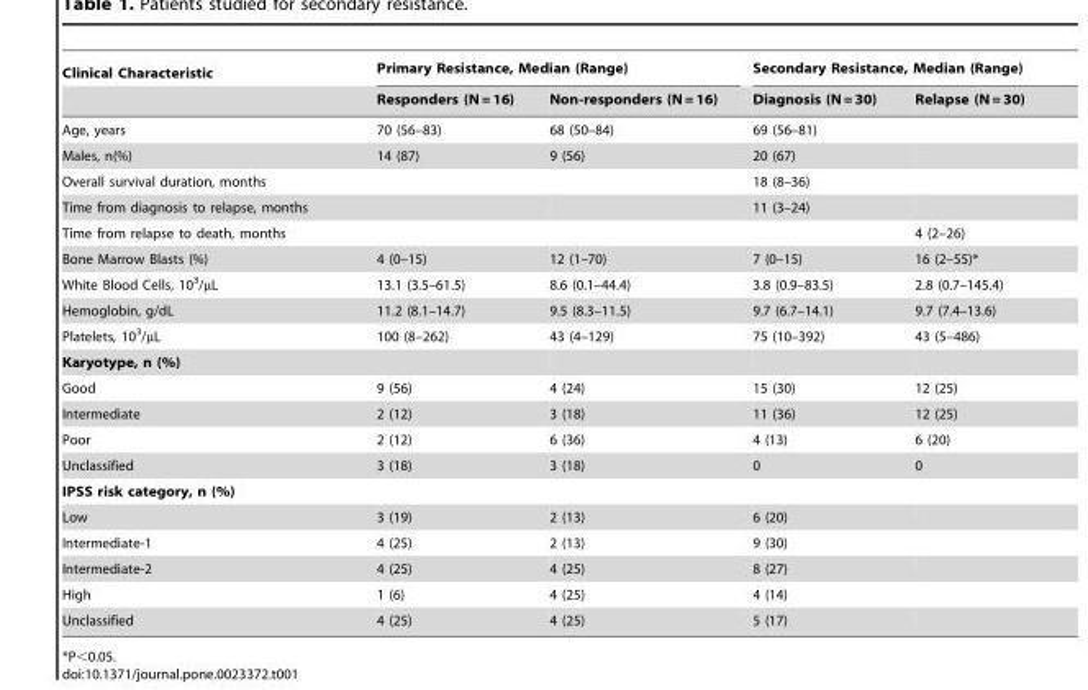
<table><thead><tr><td rowspan="2">Clinical Characteristic</td><td colspan="2">Primary Resistance, Median (Range)</td><td colspan="2">Secondary Resistance, Median (Range)</td></tr><tr><td>Responders (N = 16)</td><td>Non-responders (N = 16)</td><td>Diagnosis (N = 30)</td><td>Relapse (N = 30)</td></tr></thead><tbody><tr><td>Age, years</td><td>70 (56–83)</td><td>68 (50–84)</td><td>69 (56–81)</td><td></td></tr><tr><td>Males, n(%)</td><td>14 (87)</td><td>9 (56)</td><td>20 (67)</td><td></td></tr><tr><td>Overall survival duration, months</td><td></td><td></td><td>18 (8–36)</td><td></td></tr><tr><td>Time from diagnosis to relapse, months</td><td></td><td></td><td>11 (3–24)</td><td></td></tr><tr><td>Time from relapse to death, months</td><td></td><td></td><td></td><td>4 (2–26)</td></tr><tr><td>Bone Marrow Blasts (%)</td><td>4 (0–15)</td><td>12 (1–70)</td><td>7 (0–15)</td><td>16 (2–55)*</td></tr><tr><td>White Blood Cells, 10<sup>3</sup>/µL</td><td>13.1 (3.5–61.5)</td><td>8.6 (0.1–44.4)</td><td>3.8 (0.9–83.5)</td><td>2.8 (0.7–145.4)</td></tr><tr><td>Hemoglobin, g/dL</td><td>11.2 (8.1–14.7)</td><td>9.5 (8.3–11.5)</td><td>9.7 (6.7–14.1)</td><td>9.7 (7.4–13.6)</td></tr><tr><td>Platelets, 10<sup>3</sup>/µL</td><td>100 (8–262)</td><td>43 (4–129)</td><td>75 (10–392)</td><td>43 (5–486)</td></tr><tr><td colspan="5">Karyotype, n (%)</td></tr><tr><td>Good</td><td>9 (56)</td><td>4 (24)</td><td>15 (30)</td><td>12 (25)</td></tr><tr><td>Intermediate</td><td>2 (12)</td><td>3 (18)</td><td>11 (36)</td><td>12 (25)</td></tr><tr><td>Poor</td><td>2 (12)</td><td>6 (36)</td><td>4 (13)</td><td>6 (20)</td></tr><tr><td>Unclassified</td><td>3 (18)</td><td>3 (18)</td><td>0</td><td>0</td></tr><tr><td colspan="5">IPSS risk category, n (%)</td></tr><tr><td>Low</td><td>3 (19)</td><td>2 (13)</td><td>6 (20)</td><td></td></tr><tr><td>Intermediate-1</td><td>4 (25)</td><td>2 (13)</td><td>9 (30)</td><td></td></tr><tr><td>Intermediate-2</td><td>4 (25)</td><td>4 (25)</td><td>8 (27)</td><td></td></tr><tr><td>High</td><td>1 (6)</td><td>4 (25)</td><td>4 (14)</td><td></td></tr><tr><td>Unclassified</td><td>4 (25)</td><td>4 (25)</td><td>5 (17)</td><td></td></tr></tbody></table>